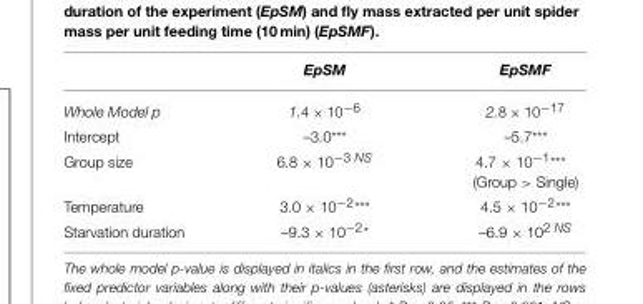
<table><thead><tr><td></td><td>EpSM</td><td>EpSMF</td></tr></thead><tbody><tr><td>Whole Model p</td><td>1.4 × 10<sup>−6</sup></td><td>2.8 × 10<sup>−17</sup></td></tr><tr><td>Intercept</td><td>–3.0***</td><td>–5.7***</td></tr><tr><td>Group size</td><td>6.8 × 10<sup>−3 NS</sup></td><td>4.7 × 10<sup>−1***</sup> (Group &gt; Single)</td></tr><tr><td>Temperature</td><td>3.0 × 10<sup>−2***</sup></td><td>4.5 × 10<sup>−2***</sup></td></tr><tr><td>Starvation duration</td><td>–9.3 × 10<sup>−2*</sup></td><td>–6.9 × 10<sup>2 NS</sup></td></tr></tbody></table>